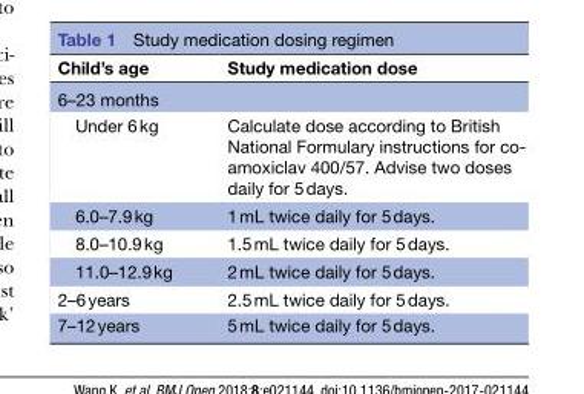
<table><thead><tr><td>Child’s age</td><td>Study medication dose</td></tr></thead><tbody><tr><td colspan="2">6–23 months</td></tr><tr><td>Under 6 kg</td><td>Calculate dose according to British National Formulary instructions for co- amoxiclav 400/57. Advise two doses daily for 5 days.</td></tr><tr><td>6.0–7.9 kg</td><td>1 mL twice daily for 5 days.</td></tr><tr><td>8.0–10.9 kg</td><td>1.5 mL twice daily for 5 days.</td></tr><tr><td>11.0–12.9 kg</td><td>2 mL twice daily for 5 days.</td></tr><tr><td>2–6 years</td><td>2.5 mL twice daily for 5 days.</td></tr><tr><td>7–12 years</td><td>5 mL twice daily for 5 days.</td></tr></tbody></table>